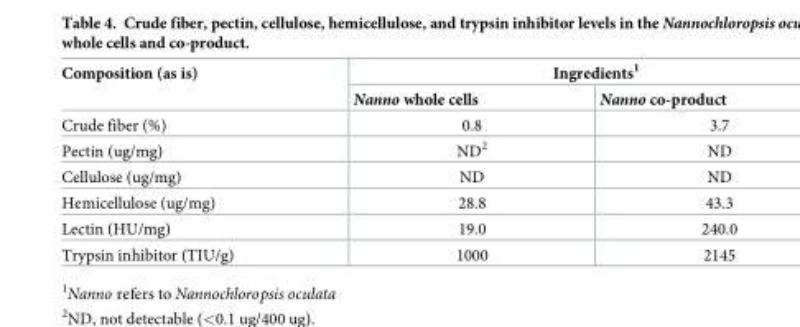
<table><thead><tr><td rowspan="2">Composition (as is)</td><td colspan="2">Ingredients<sup>1</sup></td></tr><tr><td>Nanno whole cells</td><td>Nanno co-product</td></tr></thead><tbody><tr><td>Crude fiber (%)</td><td>0.8</td><td>3.7</td></tr><tr><td>Pectin (ug/mg)</td><td>ND<sup>2</sup></td><td>ND</td></tr><tr><td>Cellulose (ug/mg)</td><td>ND</td><td>ND</td></tr><tr><td>Hemicellulose (ug/mg)</td><td>28.8</td><td>43.3</td></tr><tr><td>Lectin (HU/mg)</td><td>19.0</td><td>240.0</td></tr><tr><td>Trypsin inhibitor (TIU/g)</td><td>1000</td><td>2145</td></tr></tbody></table>